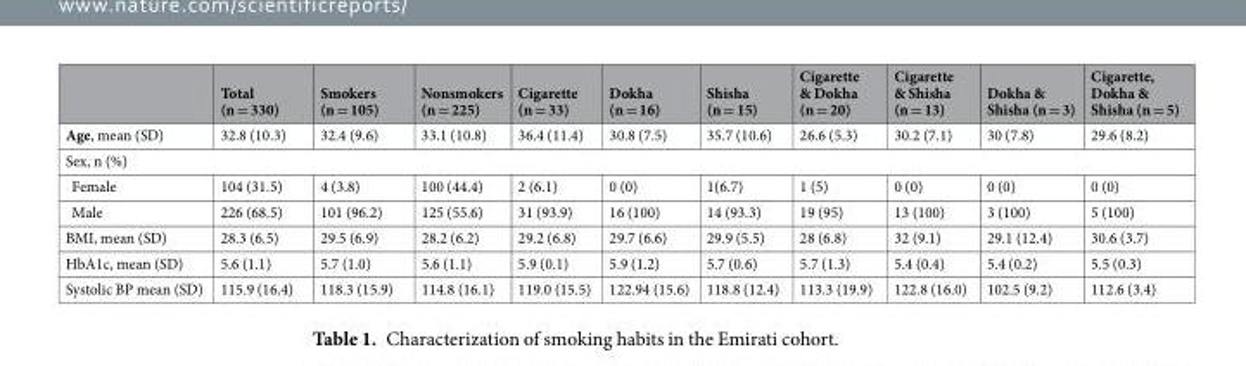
<table><thead><tr><td></td><td>Total (n = 330)</td><td>Smokers (n = 105)</td><td>Nonsmokers (n = 225)</td><td>Cigarette (n = 33)</td><td>Dokha (n = 16)</td><td>Shisha (n = 15)</td><td>Cigarette &amp; Dokha (n = 20)</td><td>Cigarette &amp; Shisha (n = 13)</td><td>Dokha &amp; Shisha (n = 3)</td><td>Cigarette, Dokha &amp; Shisha (n = 5)</td></tr></thead><tbody><tr><td>Age, mean (SD)</td><td>32.8 (10.3)</td><td>32.4 (9.6)</td><td>33.1 (10.8)</td><td>36.4 (11.4)</td><td>30.8 (7.5)</td><td>35.7 (10.6)</td><td>26.6 (5.3)</td><td>30.2 (7.1)</td><td>30 (7.8)</td><td>29.6 (8.2)</td></tr><tr><td colspan="11">Sex, n (%)</td></tr><tr><td>Female</td><td>104 (31.5)</td><td>4 (3.8)</td><td>100 (44.4)</td><td>2 (6.1)</td><td>0 (0)</td><td>1(6.7)</td><td>1 (5)</td><td>0 (0)</td><td>0 (0)</td><td>0 (0)</td></tr><tr><td>Male</td><td>226 (68.5)</td><td>101 (96.2)</td><td>125 (55.6)</td><td>31 (93.9)</td><td>16 (100)</td><td>14 (93.3)</td><td>19 (95)</td><td>13 (100)</td><td>3 (100)</td><td>5 (100)</td></tr><tr><td>BMI, mean (SD)</td><td>28.3 (6.5)</td><td>29.5 (6.9)</td><td>28.2 (6.2)</td><td>29.2 (6.8)</td><td>29.7 (6.6)</td><td>29.9 (5.5)</td><td>28 (6.8)</td><td>32 (9.1)</td><td>29.1 (12.4)</td><td>30.6 (3.7)</td></tr><tr><td>HbA1c, mean (SD)</td><td>5.6 (1.1)</td><td>5.7 (1.0)</td><td>5.6 (1.1)</td><td>5.9 (0.1)</td><td>5.9 (1.2)</td><td>5.7 (0.6)</td><td>5.7 (1.3)</td><td>5.4 (0.4)</td><td>5.4 (0.2)</td><td>5.5 (0.3)</td></tr><tr><td>Systolic BP mean (SD)</td><td>115.9 (16.4)</td><td>118.3 (15.9)</td><td>114.8 (16.1)</td><td>119.0 (15.5)</td><td>122.94 (15.6)</td><td>118.8 (12.4)</td><td>113.3 (19.9)</td><td>122.8 (16.0)</td><td>102.5 (9.2)</td><td>112.6 (3.4)</td></tr></tbody></table>